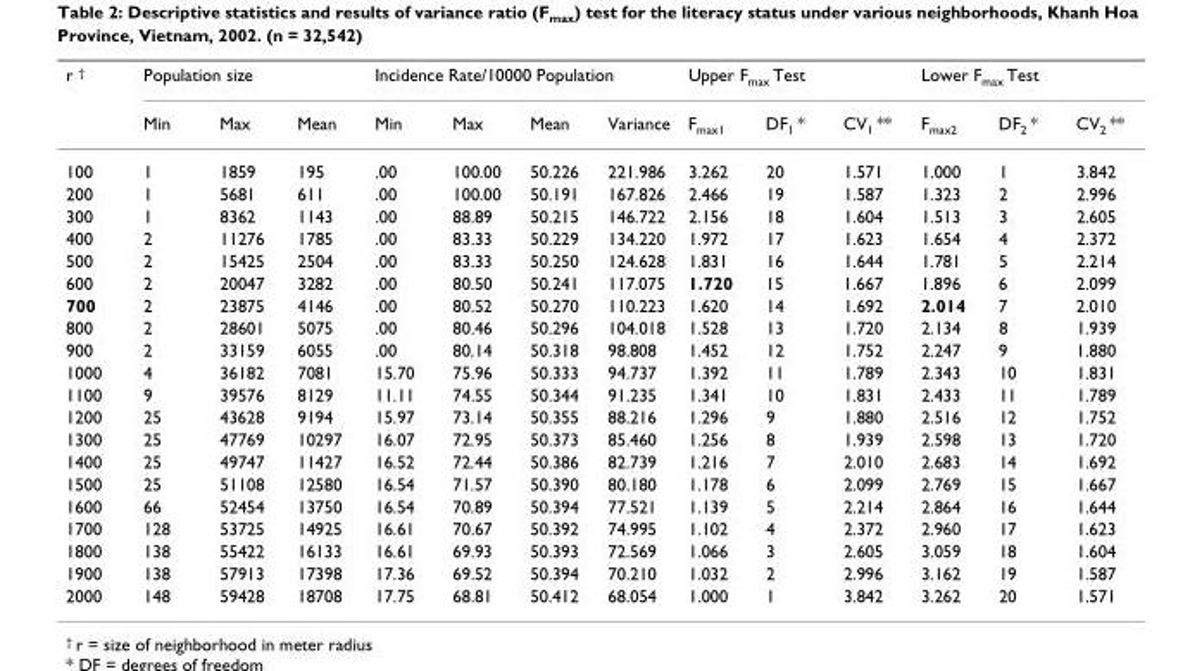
<table><thead><tr><td rowspan="2">r <sup>†</sup></td><td colspan="3">Population size</td><td colspan="4">Incidence Rate/10000 Population</td><td colspan="3">Upper F<sub>max</sub> Test</td><td colspan="3">Lower F<sub>max</sub> Test</td></tr><tr><td>Min</td><td>Max</td><td>Mean</td><td>Min</td><td>Max</td><td>Mean</td><td>Variance</td><td>F<sub>max1</sub></td><td>DF<sub>1</sub> *</td><td>CV<sub>1</sub> **</td><td>F<sub>max2</sub></td><td>DF<sub>2</sub> *</td><td>CV<sub>2</sub> **</td></tr></thead><tbody><tr><td>100</td><td>1</td><td>1859</td><td>195</td><td>.00</td><td>100.00</td><td>50.226</td><td>221.986</td><td>3.262</td><td>20</td><td>1.571</td><td>1.000</td><td>1</td><td>3.842</td></tr><tr><td>200</td><td>1</td><td>5681</td><td>611</td><td>.00</td><td>100.00</td><td>50.191</td><td>167.826</td><td>2.466</td><td>19</td><td>1.587</td><td>1.323</td><td>2</td><td>2.996</td></tr><tr><td>300</td><td>1</td><td>8362</td><td>1143</td><td>.00</td><td>88.89</td><td>50.215</td><td>146.722</td><td>2.156</td><td>18</td><td>1.604</td><td>1.513</td><td>3</td><td>2.605</td></tr><tr><td>400</td><td>2</td><td>11276</td><td>1785</td><td>.00</td><td>83.33</td><td>50.229</td><td>134.220</td><td>1.972</td><td>17</td><td>1.623</td><td>1.654</td><td>4</td><td>2.372</td></tr><tr><td>500</td><td>2</td><td>15425</td><td>2504</td><td>.00</td><td>83.33</td><td>50.250</td><td>124.628</td><td>1.831</td><td>16</td><td>1.644</td><td>1.781</td><td>5</td><td>2.214</td></tr><tr><td>600</td><td>2</td><td>20047</td><td>3282</td><td>.00</td><td>80.50</td><td>50.241</td><td>117.075</td><td>1.720</td><td>15</td><td>1.667</td><td>1.896</td><td>6</td><td>2.099</td></tr><tr><td>700</td><td>2</td><td>23875</td><td>4146</td><td>.00</td><td>80.52</td><td>50.270</td><td>110.223</td><td>1.620</td><td>14</td><td>1.692</td><td>2.014</td><td>7</td><td>2.010</td></tr><tr><td>800</td><td>2</td><td>28601</td><td>5075</td><td>.00</td><td>80.46</td><td>50.296</td><td>104.018</td><td>1.528</td><td>13</td><td>1.720</td><td>2.134</td><td>8</td><td>1.939</td></tr><tr><td>900</td><td>2</td><td>33159</td><td>6055</td><td>.00</td><td>80.14</td><td>50.318</td><td>98.808</td><td>1.452</td><td>12</td><td>1.752</td><td>2.247</td><td>9</td><td>1.880</td></tr><tr><td>1000</td><td>4</td><td>36182</td><td>7081</td><td>15.70</td><td>75.96</td><td>50.333</td><td>94.737</td><td>1.392</td><td>11</td><td>1.789</td><td>2.343</td><td>10</td><td>1.831</td></tr><tr><td>1100</td><td>9</td><td>39576</td><td>8129</td><td>11.11</td><td>74.55</td><td>50.344</td><td>91.235</td><td>1.341</td><td>10</td><td>1.831</td><td>2.433</td><td>11</td><td>1.789</td></tr><tr><td>1200</td><td>25</td><td>43628</td><td>9194</td><td>15.97</td><td>73.14</td><td>50.355</td><td>88.216</td><td>1.296</td><td>9</td><td>1.880</td><td>2.516</td><td>12</td><td>1.752</td></tr><tr><td>1300</td><td>25</td><td>47769</td><td>10297</td><td>16.07</td><td>72.95</td><td>50.373</td><td>85.460</td><td>1.256</td><td>8</td><td>1.939</td><td>2.598</td><td>13</td><td>1.720</td></tr><tr><td>1400</td><td>25</td><td>49747</td><td>11427</td><td>16.52</td><td>72.44</td><td>50.386</td><td>82.739</td><td>1.216</td><td>7</td><td>2.010</td><td>2.683</td><td>14</td><td>1.692</td></tr><tr><td>1500</td><td>25</td><td>51108</td><td>12580</td><td>16.54</td><td>71.57</td><td>50.390</td><td>80.180</td><td>1.178</td><td>6</td><td>2.099</td><td>2.769</td><td>15</td><td>1.667</td></tr><tr><td>1600</td><td>66</td><td>52454</td><td>13750</td><td>16.54</td><td>70.89</td><td>50.394</td><td>77.521</td><td>1.139</td><td>5</td><td>2.214</td><td>2.864</td><td>16</td><td>1.644</td></tr><tr><td>1700</td><td>128</td><td>53725</td><td>14925</td><td>16.61</td><td>70.67</td><td>50.392</td><td>74.995</td><td>1.102</td><td>4</td><td>2.372</td><td>2.960</td><td>17</td><td>1.623</td></tr><tr><td>1800</td><td>138</td><td>55422</td><td>16133</td><td>16.61</td><td>69.93</td><td>50.393</td><td>72.569</td><td>1.066</td><td>3</td><td>2.605</td><td>3.059</td><td>18</td><td>1.604</td></tr><tr><td>1900</td><td>138</td><td>57913</td><td>17398</td><td>17.36</td><td>69.52</td><td>50.394</td><td>70.210</td><td>1.032</td><td>2</td><td>2.996</td><td>3.162</td><td>19</td><td>1.587</td></tr><tr><td>2000</td><td>148</td><td>59428</td><td>18708</td><td>17.75</td><td>68.81</td><td>50.412</td><td>68.054</td><td>1.000</td><td>1</td><td>3.842</td><td>3.262</td><td>20</td><td>1.571</td></tr></tbody></table>